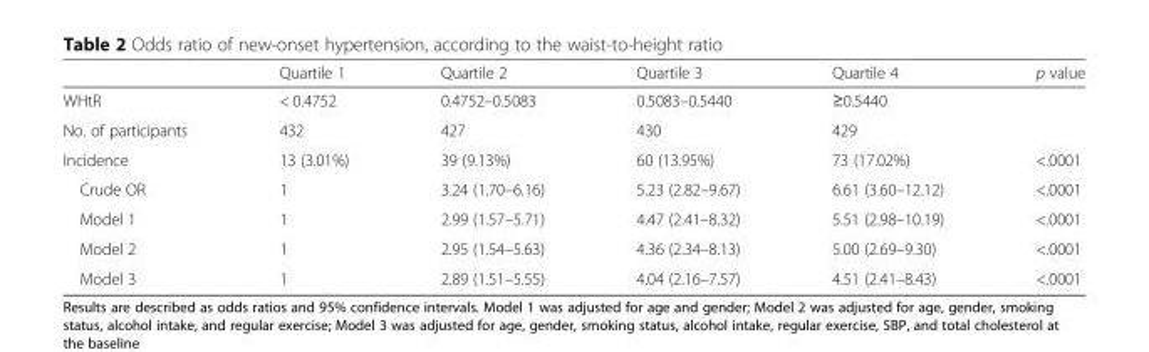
<table><thead><tr><td></td><td>Quartile 1</td><td>Quartile 2</td><td>Quartile 3</td><td>Quartile 4</td><td>p value</td></tr></thead><tbody><tr><td>WHtR</td><td>&lt; 0.4752</td><td>0.4752–0.5083</td><td>0.5083–0.5440</td><td>≥0.5440</td><td></td></tr><tr><td>No. of participants</td><td>432</td><td>427</td><td>430</td><td>429</td><td></td></tr><tr><td>Incidence</td><td>13 (3.01%)</td><td>39 (9.13%)</td><td>60 (13.95%)</td><td>73 (17.02%)</td><td>&lt;.0001</td></tr><tr><td>Crude OR</td><td>1</td><td>3.24 (1.70–6.16)</td><td>5.23 (2.82–9.67)</td><td>6.61 (3.60–12.12)</td><td>&lt;.0001</td></tr><tr><td>Model 1</td><td>1</td><td>2.99 (1.57–5.71)</td><td>4.47 (2.41–8.32)</td><td>5.51 (2.98–10.19)</td><td>&lt;.0001</td></tr><tr><td>Model 2</td><td>1</td><td>2.95 (1.54–5.63)</td><td>4.36 (2.34–8.13)</td><td>5.00 (2.69–9.30)</td><td>&lt;.0001</td></tr><tr><td>Model 3</td><td>1</td><td>2.89 (1.51–5.55)</td><td>4.04 (2.16–7.57)</td><td>4.51 (2.41–8.43)</td><td>&lt;.0001</td></tr></tbody></table>